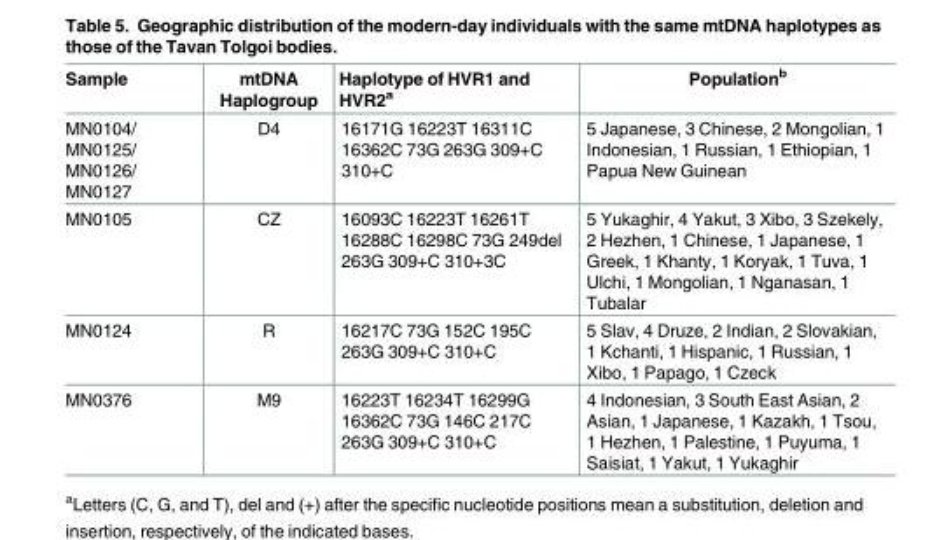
<table><thead><tr><td>Sample</td><td>mtDNA Haplogroup</td><td>Haplotype of HVR1 and HVR2<sup>a</sup></td><td>Population<sup>b</sup></td></tr></thead><tbody><tr><td>MN0104/ MN0125/ MN0126/ MN0127</td><td>D4</td><td>16171G 16223T 16311C 16362C 73G 263G 309+C 310+C</td><td>5 Japanese, 3 Chinese, 2 Mongolian, 1 Indonesian, 1 Russian, 1 Ethiopian, 1 Papua New Guinean</td></tr><tr><td>MN0105</td><td>CZ</td><td>16093C 16223T 16261T 16288C 16298C 73G 249del 263G 309+C 310+3C</td><td>5 Yukaghir, 4 Yakut, 3 Xibo, 3 Szekely, 2 Hezhen, 1 Chinese, 1 Japanese, 1 Greek, 1 Khanty, 1 Koryak, 1 Tuva, 1 Ulchi, 1 Mongolian, 1 Nganasan, 1 Tubalar</td></tr><tr><td>MN0124</td><td>R</td><td>16217C 73G 152C 195C 263G 309+C 310+C</td><td>5 Slav, 4 Druze, 2 Indian, 2 Slovakian, 1 Kchanti, 1 Hispanic, 1 Russian, 1 Xibo, 1 Papago, 1 Czeck</td></tr><tr><td>MN0376</td><td>M9</td><td>16223T 16234T 16299G 16362C 73G 146C 217C 263G 309+C 310+C</td><td>4 Indonesian, 3 South East Asian, 2 Asian, 1 Japanese, 1 Kazakh, 1 Tsou, 1 Hezhen, 1 Palestine, 1 Puyuma, 1 Saisiat, 1 Yakut, 1 Yukaghir</td></tr></tbody></table>